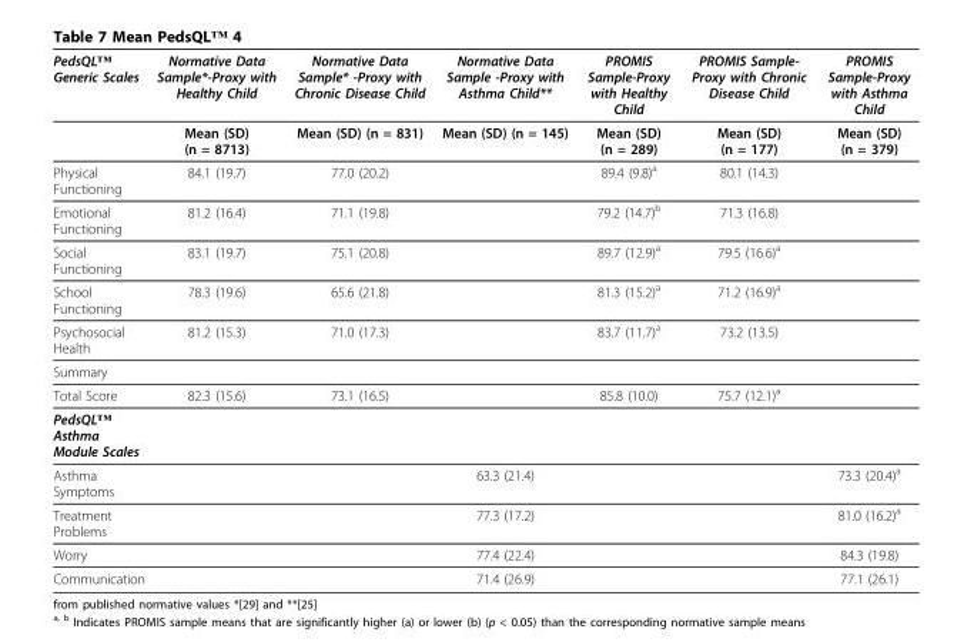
<table><thead><tr><td>PedsQL™ Generic Scales</td><td>Normative Data Sample*-Proxy with Healthy Child</td><td>Normative Data Sample* -Proxy with Chronic Disease Child</td><td>Normative Data Sample -Proxy with Asthma Child**</td><td>PROMIS Sample-Proxy with Healthy Child</td><td>PROMIS Sample- Proxy with Chronic Disease Child</td><td>PROMIS Sample-Proxy with Asthma Child</td></tr></thead><tbody><tr><td></td><td>Mean (SD) (n = 8713)</td><td>Mean (SD) (n = 831)</td><td>Mean (SD) (n = 145)</td><td>Mean (SD) (n = 289)</td><td>Mean (SD) (n = 177)</td><td>Mean (SD) (n = 379)</td></tr><tr><td>Physical Functioning</td><td>84.1 (19.7)</td><td>77.0 (20.2)</td><td></td><td>89.4 (9.8)<sup>a</sup></td><td>80.1 (14.3)</td><td></td></tr><tr><td>Emotional Functioning</td><td>81.2 (16.4)</td><td>71.1 (19.8)</td><td></td><td>79.2 (14.7)<sup>b</sup></td><td>71.3 (16.8)</td><td></td></tr><tr><td>Social Functioning</td><td>83.1 (19.7)</td><td>75.1 (20.8)</td><td></td><td>89.7 (12.9)<sup>a</sup></td><td>79.5 (16.6)<sup>a</sup></td><td></td></tr><tr><td>School Functioning</td><td>78.3 (19.6)</td><td>65.6 (21.8)</td><td></td><td>81.3 (15.2)<sup>a</sup></td><td>71.2 (16.9)<sup>a</sup></td><td></td></tr><tr><td>Psychosocial Health</td><td>81.2 (15.3)</td><td>71.0 (17.3)</td><td></td><td>83.7 (11.7)<sup>a</sup></td><td>73.2 (13.5)</td><td></td></tr><tr><td colspan="7">Summary</td></tr><tr><td>Total Score</td><td>82.3 (15.6)</td><td>73.1 (16.5)</td><td></td><td>85.8 (10.0)</td><td>75.7 (12.1)<sup>a</sup></td><td></td></tr><tr><td colspan="7">PedsQL™ Asthma Module Scales</td></tr><tr><td>Asthma Symptoms</td><td></td><td></td><td>63.3 (21.4)</td><td></td><td></td><td>73.3 (20.4)<sup>a</sup></td></tr><tr><td>Treatment Problems</td><td></td><td></td><td>77.3 (17.2)</td><td></td><td></td><td>81.0 (16.2)<sup>a</sup></td></tr><tr><td>Worry</td><td></td><td></td><td>77.4 (22.4)</td><td></td><td></td><td>84.3 (19.8)</td></tr><tr><td>Communication</td><td></td><td></td><td>71.4 (26.9)</td><td></td><td></td><td>77.1 (26.1)</td></tr></tbody></table>